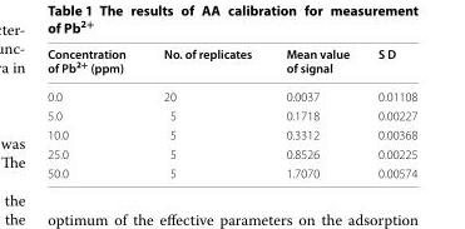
<table><thead><tr><td>Concentration of Pb<sup>2+</sup> (ppm)</td><td>No. of replicates</td><td>Mean value of signal</td><td>S D</td></tr></thead><tbody><tr><td>0.0</td><td>20</td><td>0.0037</td><td>0.01108</td></tr><tr><td>5.0</td><td>5</td><td>0.1718</td><td>0.00227</td></tr><tr><td>10.0</td><td>5</td><td>0.3312</td><td>0.00368</td></tr><tr><td>25.0</td><td>5</td><td>0.8526</td><td>0.00225</td></tr><tr><td>50.0</td><td>5</td><td>1.7070</td><td>0.00574</td></tr></tbody></table>